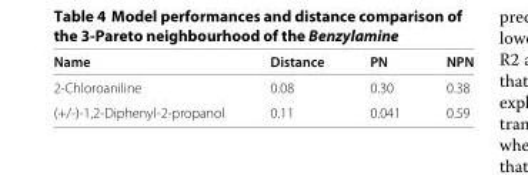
<table><thead><tr><td>Name</td><td>Distance</td><td>PN</td><td>NPN</td></tr></thead><tbody><tr><td>2-Chloroaniline</td><td>0.08</td><td>0.30</td><td>0.38</td></tr><tr><td>(+/-)-1,2-Diphenyl-2-propanol</td><td>0.11</td><td>0.041</td><td>0.59</td></tr></tbody></table>